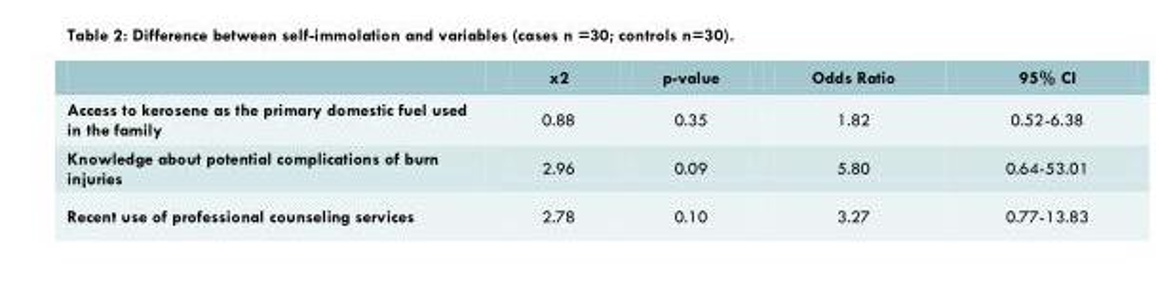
<table><thead><tr><td></td><td>x2</td><td>p-value</td><td>Odds Ratio</td><td>95% CI</td></tr></thead><tbody><tr><td>Access to kerosene as the primary domestic fuel used in the family</td><td>0.88</td><td>0.35</td><td>1.82</td><td>0.52-6.38</td></tr><tr><td>Knowledge about potential complications of burn injuries</td><td>2.96</td><td>0.09</td><td>5.80</td><td>0.64-53.01</td></tr><tr><td>Recent use of professional counseling services</td><td>2.78</td><td>0.10</td><td>3.27</td><td>0.77-13.83</td></tr></tbody></table>